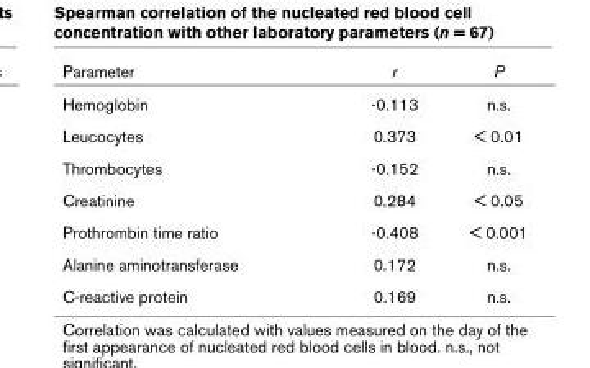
<table><thead><tr><td>Parameter</td><td>r</td><td>P</td></tr></thead><tbody><tr><td>Hemoglobin</td><td>-0.113</td><td>n.s.</td></tr><tr><td>Leucocytes</td><td>0.373</td><td>&lt; 0.01</td></tr><tr><td>Thrombocytes</td><td>-0.152</td><td>n.s.</td></tr><tr><td>Creatinine</td><td>0.284</td><td>&lt; 0.05</td></tr><tr><td>Prothrombin time ratio</td><td>-0.408</td><td>&lt; 0.001</td></tr><tr><td>Alanine aminotransferase</td><td>0.172</td><td>n.s.</td></tr><tr><td>C-reactive protein</td><td>0.169</td><td>n.s.</td></tr></tbody></table>